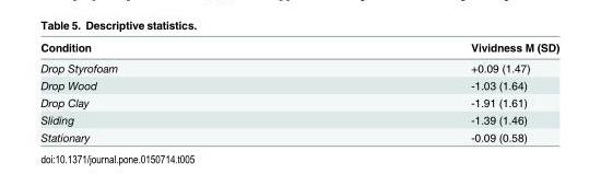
<table><thead><tr><td>Condition</td><td>Vividness M (SD)</td></tr></thead><tbody><tr><td>Drop Styrofoam</td><td>+0.09 (1.47)</td></tr><tr><td>Drop Wood</td><td>-1.03 (1.64)</td></tr><tr><td>Drop Clay</td><td>-1.91 (1.61)</td></tr><tr><td>Sliding</td><td>-1.39 (1.46)</td></tr><tr><td>Stationary</td><td>-0.09 (0.58)</td></tr></tbody></table>